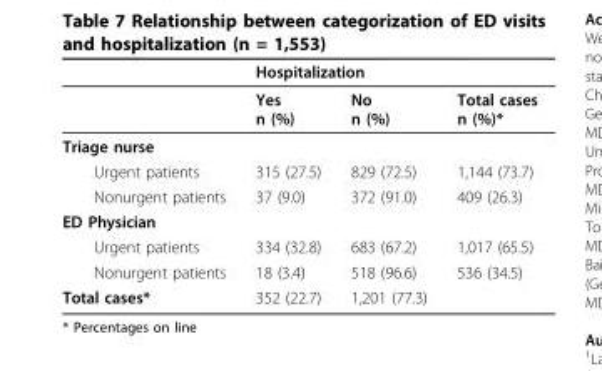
<table><thead><tr><td rowspan="2"></td><td colspan="2">Hospitalization</td><td rowspan="2">Total cases n (%)*</td></tr><tr><td>Yes n (%)</td><td>No n (%)</td></tr></thead><tbody><tr><td colspan="4">Triage nurse</td></tr><tr><td>Urgent patients</td><td>315 (27.5)</td><td>829 (72.5)</td><td>1,144 (73.7)</td></tr><tr><td>Nonurgent patients</td><td>37 (9.0)</td><td>372 (91.0)</td><td>409 (26.3)</td></tr><tr><td colspan="4">ED Physician</td></tr><tr><td>Urgent patients</td><td>334 (32.8)</td><td>683 (67.2)</td><td>1,017 (65.5)</td></tr><tr><td>Nonurgent patients</td><td>18 (3.4)</td><td>518 (96.6)</td><td>536 (34.5)</td></tr><tr><td>Total cases*</td><td>352 (22.7)</td><td>1,201 (77.3)</td><td></td></tr></tbody></table>